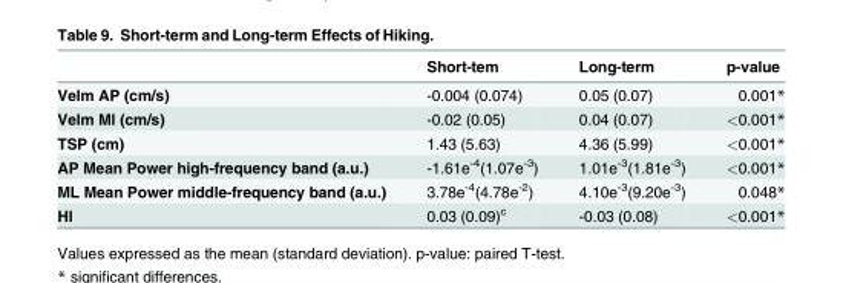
<table><thead><tr><td></td><td>Short-tem</td><td>Long-term</td><td>p-value</td></tr></thead><tbody><tr><td>Velm AP (cm/s)</td><td>-0.004 (0.074)</td><td>0.05 (0.07)</td><td>0.001*</td></tr><tr><td>Velm Ml (cm/s)</td><td>-0.02 (0.05)</td><td>0.04 (0.07)</td><td>&lt;0.001*</td></tr><tr><td>TSP (cm)</td><td>1.43 (5.63)</td><td>4.36 (5.99)</td><td>&lt;0.001*</td></tr><tr><td>AP Mean Power high-frequency band (a.u.)</td><td>-1.61e<sup>-4</sup>(1.07e<sup>-3</sup>)</td><td>1.01e<sup>-3</sup>(1.81e<sup>-3</sup>)</td><td>&lt;0.001*</td></tr><tr><td>ML Mean Power middle-frequency band (a.u.)</td><td>3.78e<sup>-4</sup>(4.78e<sup>-2</sup>)</td><td>4.10e<sup>-3</sup>(9.20e<sup>-3</sup>)</td><td>0.048*</td></tr><tr><td>Hl</td><td>0.03 (0.09)<sup>c</sup></td><td>-0.03 (0.08)</td><td>&lt;0.001*</td></tr></tbody></table>